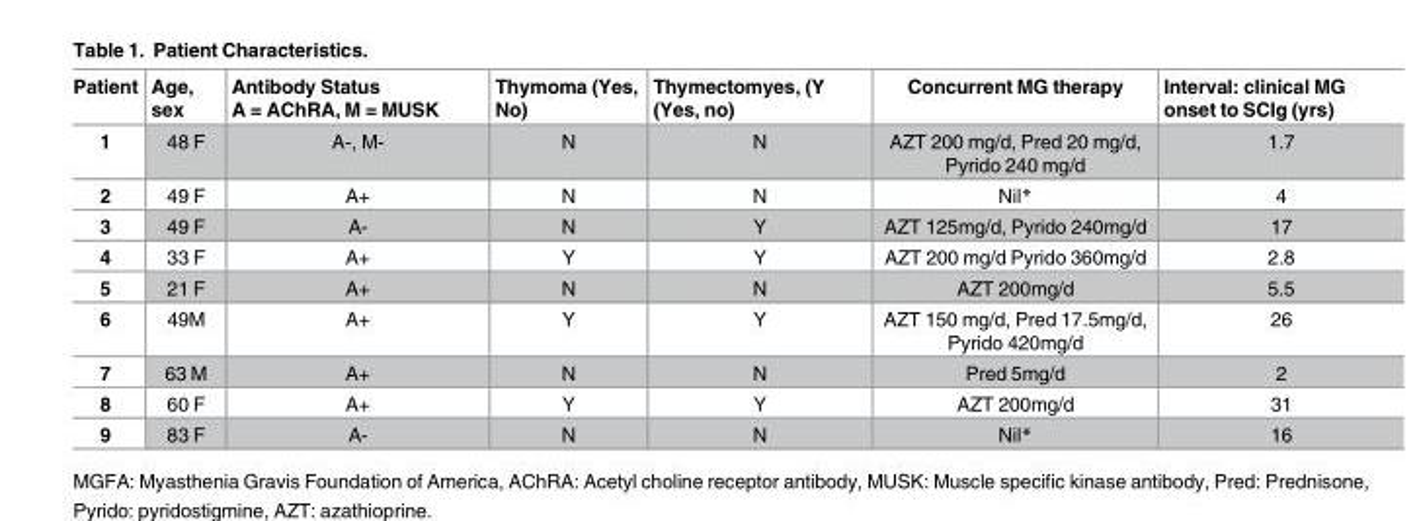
<table><thead><tr><td>Patient</td><td>Age, sex</td><td>Antibody Status A = AChRA, M = MUSK</td><td>Thymoma (Yes, No)</td><td>Thymectomyes, (Y (Yes, no)</td><td>Concurrent MG therapy</td><td>Interval: clinical MG onset to SCIg (yrs)</td></tr></thead><tbody><tr><td>1</td><td>48 F</td><td>A-, M-</td><td>N</td><td>N</td><td>AZT 200 mg/d, Pred 20 mg/d, Pyrido 240 mg/d</td><td>1.7</td></tr><tr><td>2</td><td>49 F</td><td>A+</td><td>N</td><td>N</td><td>Nil*</td><td>4</td></tr><tr><td>3</td><td>49 F</td><td>A-</td><td>N</td><td>Y</td><td>AZT 125mg/d, Pyrido 240mg/d</td><td>17</td></tr><tr><td>4</td><td>33 F</td><td>A+</td><td>Y</td><td>Y</td><td>AZT 200 mg/d Pyrido 360mg/d</td><td>2.8</td></tr><tr><td>5</td><td>21 F</td><td>A+</td><td>N</td><td>N</td><td>AZT 200mg/d</td><td>5.5</td></tr><tr><td>6</td><td>49M</td><td>A+</td><td>Y</td><td>Y</td><td>AZT 150 mg/d, Pred 17.5mg/d, Pyrido 420mg/d</td><td>26</td></tr><tr><td>7</td><td>63 M</td><td>A+</td><td>N</td><td>N</td><td>Pred 5mg/d</td><td>2</td></tr><tr><td>8</td><td>60 F</td><td>A+</td><td>Y</td><td>Y</td><td>AZT 200mg/d</td><td>31</td></tr><tr><td>9</td><td>83 F</td><td>A-</td><td>N</td><td>N</td><td>Nil*</td><td>16</td></tr></tbody></table>